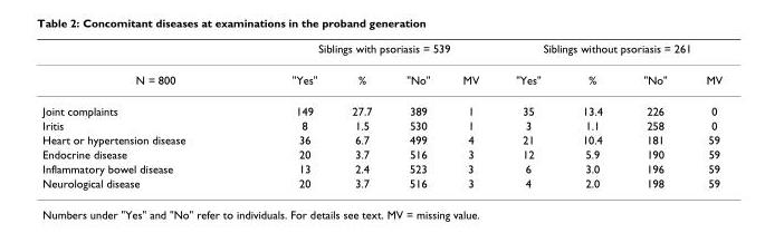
<table><thead><tr><td rowspan="2">N = 800</td><td colspan="4">Siblings with psoriasis = 539</td><td colspan="4">Siblings without psoriasis = 261</td></tr><tr><td>&quot;Yes&quot;</td><td>%</td><td>&quot;No&quot;</td><td>MV</td><td>&quot;Yes&quot;</td><td>%</td><td>&quot;No&quot;</td><td>MV</td></tr></thead><tbody><tr><td>Joint complaints</td><td>149</td><td>27.7</td><td>389</td><td>1</td><td>35</td><td>13.4</td><td>226</td><td>0</td></tr><tr><td>Iritis</td><td>8</td><td>1.5</td><td>530</td><td>1</td><td>3</td><td>1.1</td><td>258</td><td>0</td></tr><tr><td>Heart or hypertension disease</td><td>36</td><td>6.7</td><td>499</td><td>4</td><td>21</td><td>10.4</td><td>181</td><td>59</td></tr><tr><td>Endocrine disease</td><td>20</td><td>3.7</td><td>516</td><td>3</td><td>12</td><td>5.9</td><td>190</td><td>59</td></tr><tr><td>Inflammatory bowel disease</td><td>13</td><td>2.4</td><td>523</td><td>3</td><td>6</td><td>3.0</td><td>196</td><td>59</td></tr><tr><td>Neurological disease</td><td>20</td><td>3.7</td><td>516</td><td>3</td><td>4</td><td>2.0</td><td>198</td><td>59</td></tr></tbody></table>